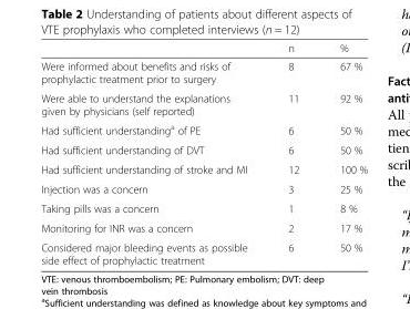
<table><thead><tr><td></td><td>n</td><td>%</td></tr></thead><tbody><tr><td>Were informed about benefits and risks of prophylactic treatment prior to surgery</td><td>8</td><td>67 %</td></tr><tr><td>Were able to understand the explanations given by physicians (self reported)</td><td>11</td><td>92 %</td></tr><tr><td>Had sufficient understanding<sup>a</sup> of PE</td><td>6</td><td>50 %</td></tr><tr><td>Had sufficient understanding of DVT</td><td>6</td><td>50 %</td></tr><tr><td>Had sufficient understanding of stroke and MI</td><td>12</td><td>100 %</td></tr><tr><td>Injection was a concern</td><td>3</td><td>25 %</td></tr><tr><td>Taking pills was a concern</td><td>1</td><td>8 %</td></tr><tr><td>Monitoring for INR was a concern</td><td>2</td><td>17 %</td></tr><tr><td>Considered major bleeding events as possible side effect of prophylactic treatment</td><td>6</td><td>50 %</td></tr></tbody></table>